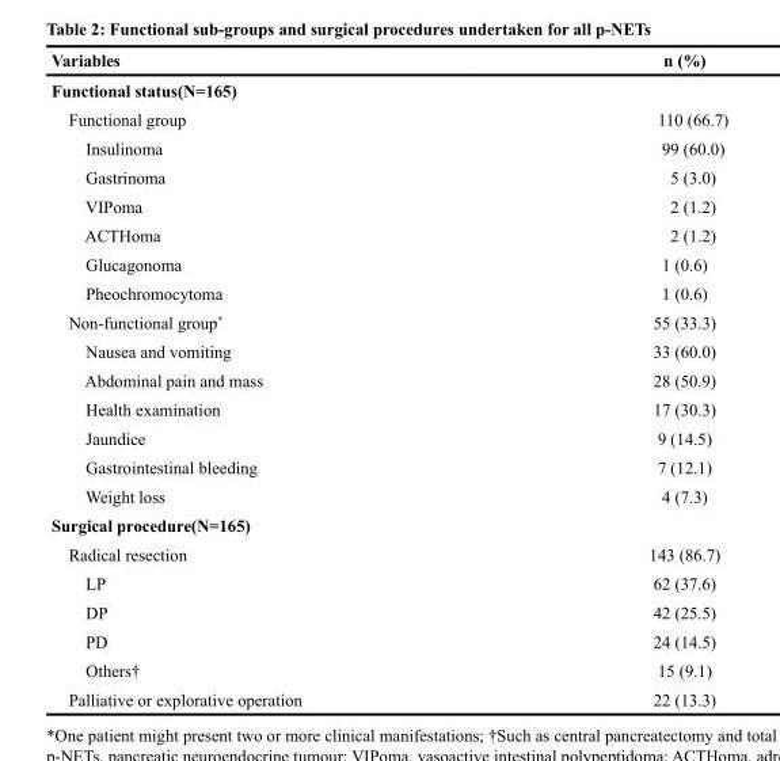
<table><thead><tr><td>Variables</td><td>n (%)</td></tr></thead><tbody><tr><td colspan="2">Functional status(N=165)</td></tr><tr><td>Functional group</td><td>110 (66.7)</td></tr><tr><td>Insulinoma</td><td>99 (60.0)</td></tr><tr><td>Gastrinoma</td><td>5 (3.0)</td></tr><tr><td>VIPoma</td><td>2 (1.2)</td></tr><tr><td>ACTHoma</td><td>2 (1.2)</td></tr><tr><td>Glucagonoma</td><td>1 (0.6)</td></tr><tr><td>Pheochromocytoma</td><td>1 (0.6)</td></tr><tr><td>Non-functional group*</td><td>55 (33.3)</td></tr><tr><td>Nausea and vomiting</td><td>33 (60.0)</td></tr><tr><td>Abdominal pain and mass</td><td>28 (50.9)</td></tr><tr><td>Health examination</td><td>17 (30.3)</td></tr><tr><td>Jaundice</td><td>9 (14.5)</td></tr><tr><td>Gastrointestinal bleeding</td><td>7 (12.1)</td></tr><tr><td>Weight loss</td><td>4 (7.3)</td></tr><tr><td colspan="2">Surgical procedure(N=165)</td></tr><tr><td>Radical resection</td><td>143 (86.7)</td></tr><tr><td>LP</td><td>62 (37.6)</td></tr><tr><td>DP</td><td>42 (25.5)</td></tr><tr><td>PD</td><td>24 (14.5)</td></tr><tr><td>Others†</td><td>15 (9.1)</td></tr><tr><td>Palliative or explorative operation</td><td>22 (13.3)</td></tr></tbody></table>